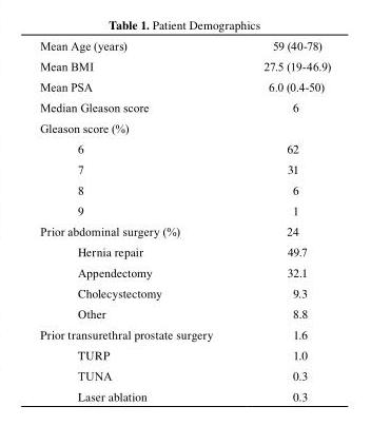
<table><tbody><tr><td>Mean Age (years)</td><td>59 (40-78)</td></tr><tr><td>Mean BMI</td><td>27.5 (19-46.9)</td></tr><tr><td>Mean PSA</td><td>6.0 (0.4-50)</td></tr><tr><td>Median Gleason score</td><td>6</td></tr><tr><td colspan="2">Gleason score (%)</td></tr><tr><td>6</td><td>62</td></tr><tr><td>7</td><td>31</td></tr><tr><td>8</td><td>6</td></tr><tr><td>9</td><td>1</td></tr><tr><td>Prior abdominal surgery (%)</td><td>24</td></tr><tr><td>Hernia repair</td><td>49.7</td></tr><tr><td>Appendectomy</td><td>32.1</td></tr><tr><td>Cholecystectomy</td><td>9.3</td></tr><tr><td>Other</td><td>8.8</td></tr><tr><td>Prior transurethral prostate surgery</td><td>1.6</td></tr><tr><td>TURP</td><td>1.0</td></tr><tr><td>TUNA</td><td>0.3</td></tr><tr><td>Laser ablation</td><td>0.3</td></tr></tbody></table>